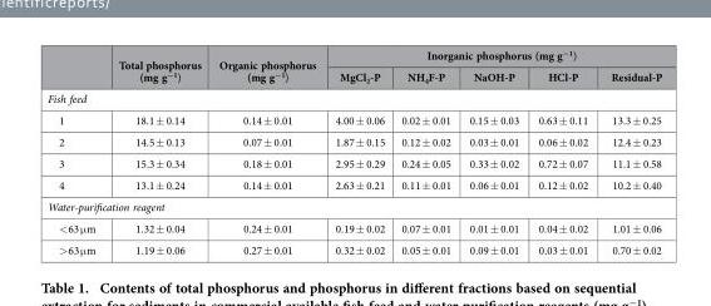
<table><thead><tr><td rowspan="2"></td><td rowspan="2">Total phosphorus (mg g<sup>−1</sup>)</td><td rowspan="2">Organic phosphorus (mg g<sup>−1</sup>)</td><td colspan="5">Inorganic phosphorus (mg g<sup>−1</sup>)</td></tr><tr><td>MgCl<sub>2</sub>-P</td><td>NH<sub>4</sub>F-P</td><td>NaOH-P</td><td>HCl-P</td><td>Residual-P</td></tr></thead><tbody><tr><td colspan="8">Fish feed</td></tr><tr><td>1</td><td>18.1 ± 0.14</td><td>0.14 ± 0.01</td><td>4.00 ± 0.06</td><td>0.02 ± 0.01</td><td>0.15 ± 0.03</td><td>0.63 ± 0.11</td><td>13.3 ± 0.25</td></tr><tr><td>2</td><td>14.5 ± 0.13</td><td>0.07 ± 0.01</td><td>1.87 ± 0.15</td><td>0.12 ± 0.02</td><td>0.03 ± 0.01</td><td>0.06 ± 0.02</td><td>12.4 ± 0.23</td></tr><tr><td>3</td><td>15.3 ± 0.34</td><td>0.18 ± 0.01</td><td>2.95 ± 0.29</td><td>0.24 ± 0.05</td><td>0.33 ± 0.02</td><td>0.72 ± 0.07</td><td>11.1 ± 0.58</td></tr><tr><td>4</td><td>13.1 ± 0.24</td><td>0.14 ± 0.01</td><td>2.63 ± 0.21</td><td>0.11 ± 0.01</td><td>0.06 ± 0.01</td><td>0.12 ± 0.02</td><td>10.2 ± 0.40</td></tr><tr><td colspan="8">Water-purification reagent</td></tr><tr><td>&lt; 63 μ m</td><td>1.32 ± 0.04</td><td>0.24 ± 0.01</td><td>0.19 ± 0.02</td><td>0.07 ± 0.01</td><td>0.01 ± 0.01</td><td>0.04 ± 0.02</td><td>1.01 ± 0.06</td></tr><tr><td>&gt; 63 μ m</td><td>1.19 ± 0.06</td><td>0.27 ± 0.01</td><td>0.32 ± 0.02</td><td>0.05 ± 0.01</td><td>0.09 ± 0.01</td><td>0.03 ± 0.01</td><td>0.70 ± 0.02</td></tr></tbody></table>